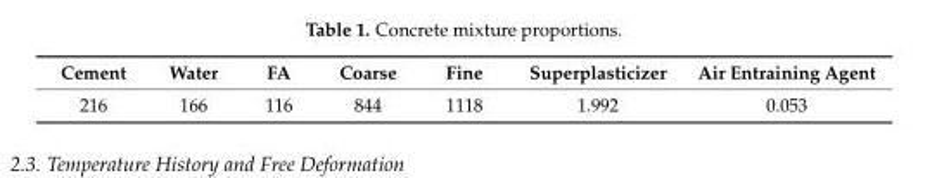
<table><thead><tr><td>Cement</td><td>Water</td><td>FA</td><td>Coarse</td><td>Fine</td><td>Superplasticizer</td><td>Air Entraining Agent</td></tr></thead><tbody><tr><td>216</td><td>166</td><td>116</td><td>844</td><td>1118</td><td>1.992</td><td>0.053</td></tr></tbody></table>